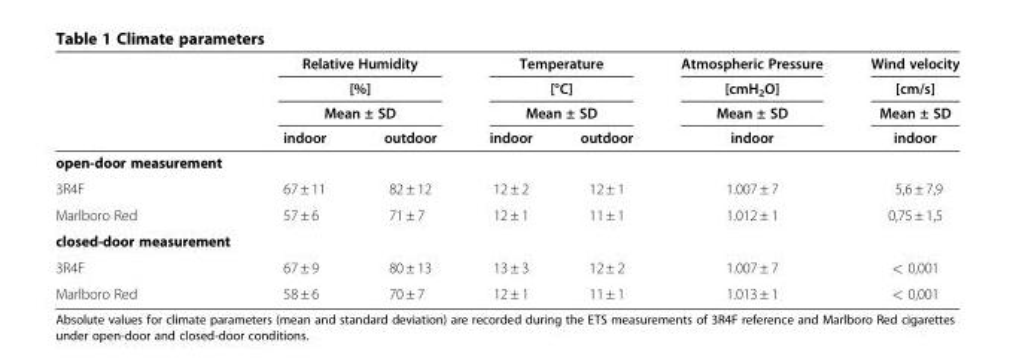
<table><thead><tr><td rowspan="4"></td><td rowspan="3" colspan="2">Relative Humidity [%] Mean ± SD</td><td rowspan="3" colspan="2">Temperature [°C] Mean ± SD</td><td rowspan="4">Atmospheric Pressure [cmH<sub>2</sub>O] Mean ± SD indoor</td><td rowspan="4">Wind velocity [cm/s] Mean ± SD indoor</td></tr><tr></tr><tr></tr><tr><td>indoor</td><td>outdoor</td><td>indoor</td><td>outdoor</td></tr></thead><tbody><tr><td colspan="7">open-door measurement</td></tr><tr><td>3R4F</td><td>67 ± 11</td><td>82 ± 12</td><td>12 ± 2</td><td>12 ± 1</td><td>1.007 ± 7</td><td>5,6 ± 7,9</td></tr><tr><td>Marlboro Red</td><td>57 ± 6</td><td>71 ± 7</td><td>12 ± 1</td><td>11 ± 1</td><td>1.012 ± 1</td><td>0,75 ± 1,5</td></tr><tr><td colspan="7">closed-door measurement</td></tr><tr><td>3R4F</td><td>67 ± 9</td><td>80 ± 13</td><td>13 ± 3</td><td>12 ± 2</td><td>1.007 ± 7</td><td>&lt; 0,001</td></tr><tr><td>Marlboro Red</td><td>58 ± 6</td><td>70 ± 7</td><td>12 ± 1</td><td>11 ± 1</td><td>1.013 ± 1</td><td>&lt; 0,001</td></tr></tbody></table>